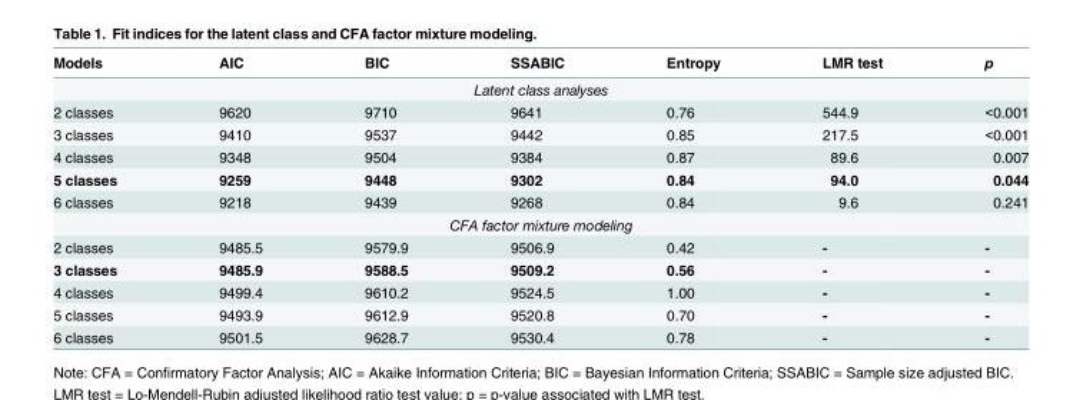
<table><thead><tr><td>Models</td><td>AIC</td><td>BIC</td><td>SSABIC</td><td>Entropy</td><td>LMR test</td><td>p</td></tr></thead><tbody><tr><td colspan="7">Latent class analyses</td></tr><tr><td>2 classes</td><td>9620</td><td>9710</td><td>9641</td><td>0.76</td><td>544.9</td><td>&lt;0.001</td></tr><tr><td>3 classes</td><td>9410</td><td>9537</td><td>9442</td><td>0.85</td><td>217.5</td><td>&lt;0.001</td></tr><tr><td>4 classes</td><td>9348</td><td>9504</td><td>9384</td><td>0.87</td><td>89.6</td><td>0.007</td></tr><tr><td>5 classes</td><td>9259</td><td>9448</td><td>9302</td><td>0.84</td><td>94.0</td><td>0.044</td></tr><tr><td>6 classes</td><td>9218</td><td>9439</td><td>9268</td><td>0.84</td><td>9.6</td><td>0.241</td></tr><tr><td colspan="7">CFA factor mixture modeling</td></tr><tr><td>2 classes</td><td>9485.5</td><td>9579.9</td><td>9506.9</td><td>0.42</td><td>-</td><td>-</td></tr><tr><td>3 classes</td><td>9485.9</td><td>9588.5</td><td>9509.2</td><td>0.56</td><td>-</td><td>-</td></tr><tr><td>4 classes</td><td>9499.4</td><td>9610.2</td><td>9524.5</td><td>1.00</td><td>-</td><td>-</td></tr><tr><td>5 classes</td><td>9493.9</td><td>9612.9</td><td>9520.8</td><td>0.70</td><td>-</td><td>-</td></tr><tr><td>6 classes</td><td>9501.5</td><td>9628.7</td><td>9530.4</td><td>0.78</td><td>-</td><td>-</td></tr></tbody></table>